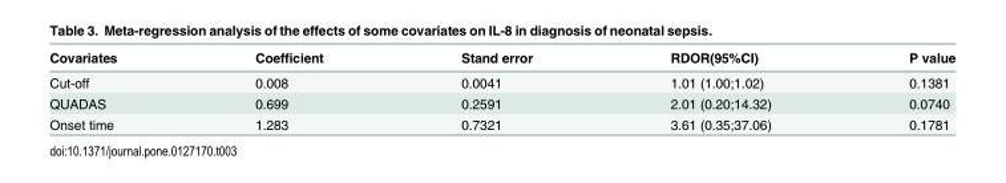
<table><thead><tr><td>Covariates</td><td>Coefficient</td><td>Stand error</td><td>RDOR(95%CI)</td><td>P value</td></tr></thead><tbody><tr><td>Cut-off</td><td>0.008</td><td>0.0041</td><td>1.01 (1.00;1.02)</td><td>0.1381</td></tr><tr><td>QUADAS</td><td>0.699</td><td>0.2591</td><td>2.01 (0.20;14.32)</td><td>0.0740</td></tr><tr><td>Onset time</td><td>1.283</td><td>0.7321</td><td>3.61 (0.35;37.06)</td><td>0.1781</td></tr></tbody></table>